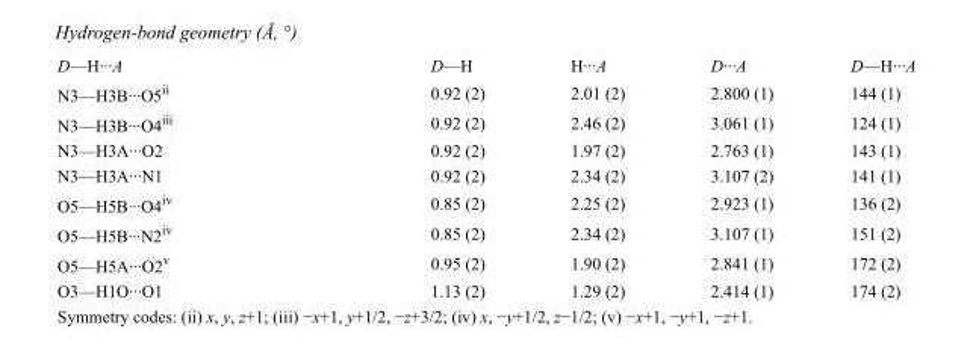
<table><tbody><tr><td>D—H···A</td><td>D—H</td><td>H···A</td><td>D···A</td><td>D—H···A</td></tr><tr><td>N3—H3B···O5<sup>ii</sup></td><td>0.92 (2)</td><td>2.01 (2)</td><td>2.800 (1)</td><td>144 (1)</td></tr><tr><td>N3—H3B···O4<sup>iii</sup></td><td>0.92 (2)</td><td>2.46 (2)</td><td>3.061 (1)</td><td>124 (1)</td></tr><tr><td>N3—H3A···O2</td><td>0.92 (2)</td><td>1.97 (2)</td><td>2.763 (1)</td><td>143 (1)</td></tr><tr><td>N3—H3A···N1</td><td>0.92 (2)</td><td>2.34 (2)</td><td>3.107 (2)</td><td>141 (1)</td></tr><tr><td>O5—H5B···O4<sup>iv</sup></td><td>0.85 (2)</td><td>2.25 (2)</td><td>2.923 (1)</td><td>136 (2)</td></tr><tr><td>O5—H5B···N2<sup>iv</sup></td><td>0.85 (2)</td><td>2.34 (2)</td><td>3.107 (1)</td><td>151 (2)</td></tr><tr><td>O5—H5A···O2<sup>v</sup></td><td>0.95 (2)</td><td>1.90 (2)</td><td>2.841 (1)</td><td>172 (2)</td></tr><tr><td>O3—H1O···O1</td><td>1.13 (2)</td><td>1.29 (2)</td><td>2.414 (1)</td><td>174 (2)</td></tr></tbody></table>